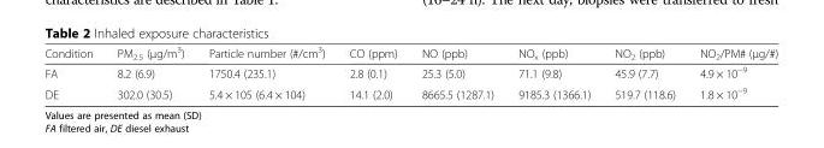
<table><thead><tr><td>Condition</td><td>PM<sub>2.5</sub> (μg/m<sup>3</sup>)</td><td>Particle number (#/cm<sup>3</sup>)</td><td>CO (ppm)</td><td>NO (ppb)</td><td>NO<sub>x</sub> (ppb)</td><td>NO<sub>2</sub> (ppb)</td><td>NO<sub>2</sub>/PM# (μg/#)</td></tr></thead><tbody><tr><td>FA</td><td>8.2 (6.9)</td><td>1750.4 (235.1)</td><td>2.8 (0.1)</td><td>25.3 (5.0)</td><td>71.1 (9.8)</td><td>45.9 (7.7)</td><td>4.9 × 10<sup>−9</sup></td></tr><tr><td>DE</td><td>302.0 (30.5)</td><td>5.4 × 105 (6.4 × 104)</td><td>14.1 (2.0)</td><td>8665.5 (1287.1)</td><td>9185.3 (1366.1)</td><td>519.7 (118.6)</td><td>1.8 × 10<sup>−9</sup></td></tr></tbody></table>